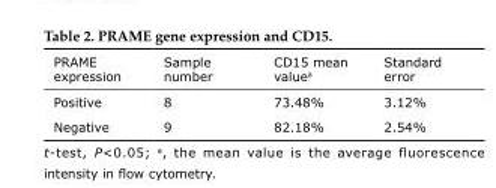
<table><thead><tr><td>PRAME expression</td><td>Sample number</td><td>CD15 mean value<sup>a</sup></td><td>Standard error</td></tr></thead><tbody><tr><td>Positive</td><td>8</td><td>73.48%</td><td>3.12%</td></tr><tr><td>Negative</td><td>9</td><td>82.18%</td><td>2.54%</td></tr></tbody></table>